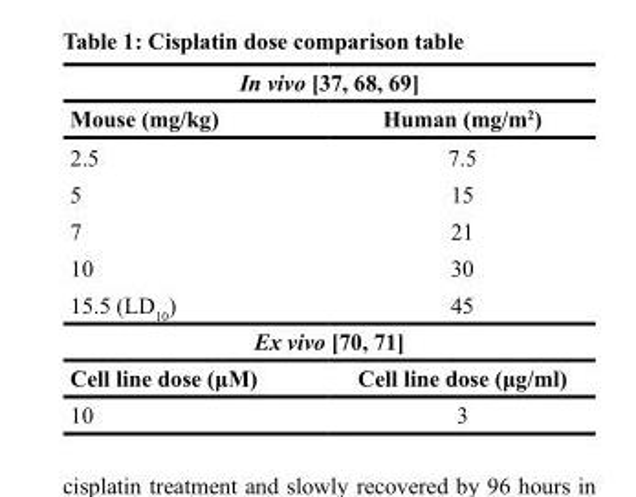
<table><thead><tr><td colspan="2">In vivo [37, 68, 69]</td></tr><tr><td>Mouse (mg/kg)</td><td>Human (mg/m<sup>2</sup>)</td></tr></thead><tbody><tr><td>2.5</td><td>7.5</td></tr><tr><td>5</td><td>15</td></tr><tr><td>7</td><td>21</td></tr><tr><td>10</td><td>30</td></tr><tr><td>15.5 (LD<sub>10</sub>)</td><td>45</td></tr><tr><td colspan="2">Ex vivo [70, 71]</td></tr><tr><td>Cell line dose (μM)</td><td>Cell line dose (μg/ml)</td></tr><tr><td>10</td><td>3</td></tr></tbody></table>